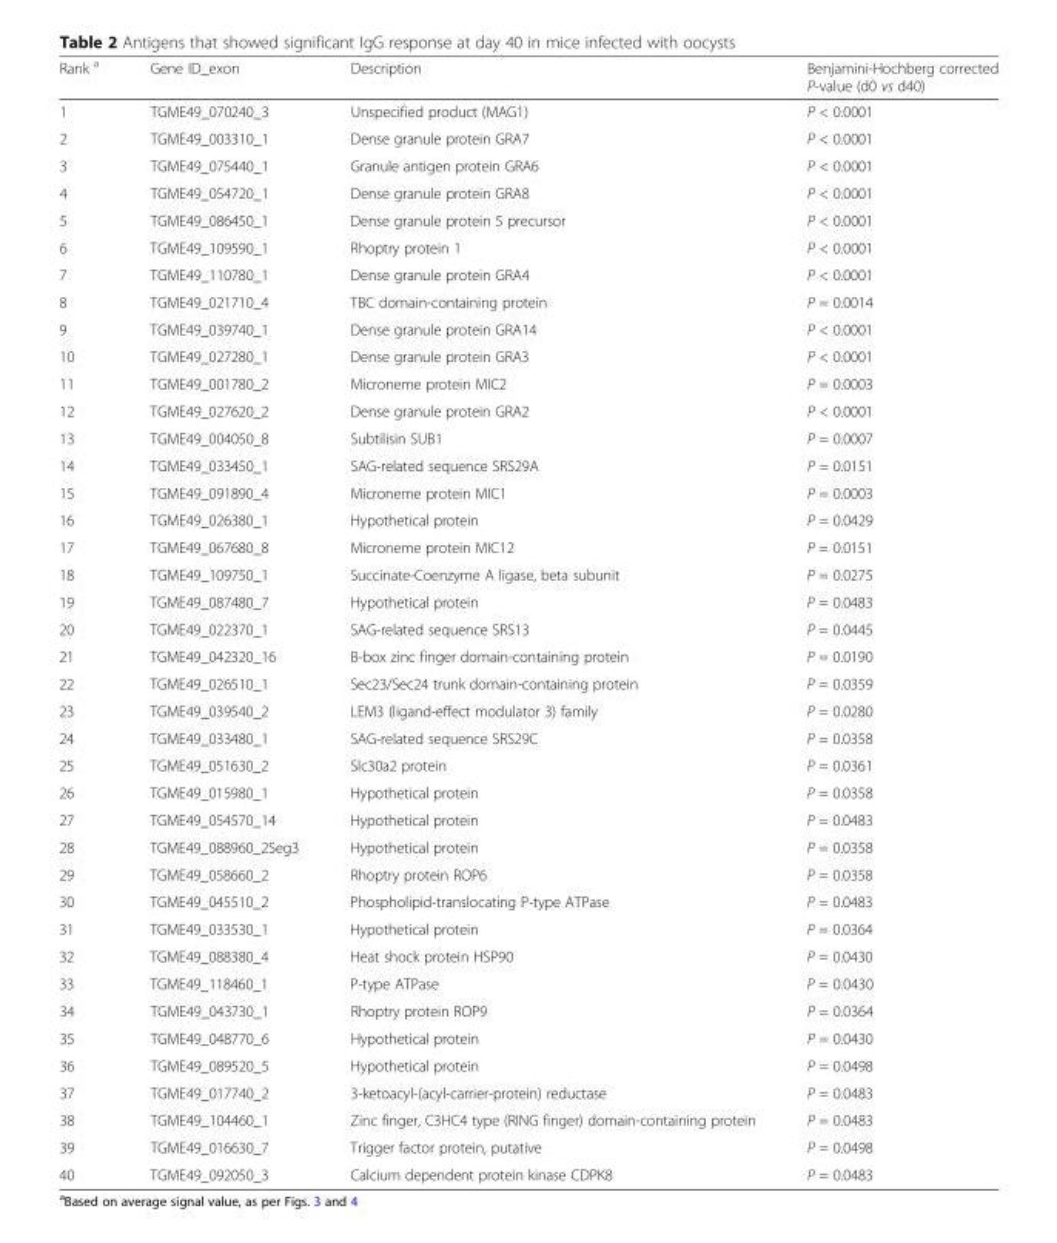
<table><thead><tr><td>Rank <sup>a</sup></td><td>Gene ID_exon</td><td>Description</td><td>Benjamini-Hochberg corrected P-value (d0 vs d40)</td></tr></thead><tbody><tr><td>1</td><td>TGME49_070240_3</td><td>Unspecified product (MAG1)</td><td>P &lt; 0.0001</td></tr><tr><td>2</td><td>TGME49_003310_1</td><td>Dense granule protein GRA7</td><td>P &lt; 0.0001</td></tr><tr><td>3</td><td>TGME49_075440_1</td><td>Granule antigen protein GRA6</td><td>P &lt; 0.0001</td></tr><tr><td>4</td><td>TGME49_054720_1</td><td>Dense granule protein GRA8</td><td>P &lt; 0.0001</td></tr><tr><td>5</td><td>TGME49_086450_1</td><td>Dense granule protein 5 precursor</td><td>P &lt; 0.0001</td></tr><tr><td>6</td><td>TGME49_109590_1</td><td>Rhoptry protein 1</td><td>P &lt; 0.0001</td></tr><tr><td>7</td><td>TGME49_110780_1</td><td>Dense granule protein GRA4</td><td>P &lt; 0.0001</td></tr><tr><td>8</td><td>TGME49_021710_4</td><td>TBC domain-containing protein</td><td>P = 0.0014</td></tr><tr><td>9</td><td>TGME49_039740_1</td><td>Dense granule protein GRA14</td><td>P &lt; 0.0001</td></tr><tr><td>10</td><td>TGME49_027280_1</td><td>Dense granule protein GRA3</td><td>P &lt; 0.0001</td></tr><tr><td>11</td><td>TGME49_001780_2</td><td>Microneme protein MIC2</td><td>P = 0.0003</td></tr><tr><td>12</td><td>TGME49_027620_2</td><td>Dense granule protein GRA2</td><td>P &lt; 0.0001</td></tr><tr><td>13</td><td>TGME49_004050_8</td><td>Subtilisin SUB1</td><td>P = 0.0007</td></tr><tr><td>14</td><td>TGME49_033450_1</td><td>SAG-related sequence SRS29A</td><td>P = 0.0151</td></tr><tr><td>15</td><td>TGME49_091890_4</td><td>Microneme protein MIC1</td><td>P = 0.0003</td></tr><tr><td>16</td><td>TGME49_026380_1</td><td>Hypothetical protein</td><td>P = 0.0429</td></tr><tr><td>17</td><td>TGME49_067680_8</td><td>Microneme protein MIC12</td><td>P = 0.0151</td></tr><tr><td>18</td><td>TGME49_109750_1</td><td>Succinate-Coenzyme A ligase, beta subunit</td><td>P = 0.0275</td></tr><tr><td>19</td><td>TGME49_087480_7</td><td>Hypothetical protein</td><td>P = 0.0483</td></tr><tr><td>20</td><td>TGME49_022370_1</td><td>SAG-related sequence SRS13</td><td>P = 0.0445</td></tr><tr><td>21</td><td>TGME49_042320_16</td><td>B-box zinc finger domain-containing protein</td><td>P = 0.0190</td></tr><tr><td>22</td><td>TGME49_026510_1</td><td>Sec23/Sec24 trunk domain-containing protein</td><td>P = 0.0359</td></tr><tr><td>23</td><td>TGME49_039540_2</td><td>LEM3 (ligand-effect modulator 3) family</td><td>P = 0.0280</td></tr><tr><td>24</td><td>TGME49_033480_1</td><td>SAG-related sequence SRS29C</td><td>P = 0.0358</td></tr><tr><td>25</td><td>TGME49_051630_2</td><td>Slc30a2 protein</td><td>P = 0.0361</td></tr><tr><td>26</td><td>TGME49_015980_1</td><td>Hypothetical protein</td><td>P = 0.0358</td></tr><tr><td>27</td><td>TGME49_054570_14</td><td>Hypothetical protein</td><td>P = 0.0483</td></tr><tr><td>28</td><td>TGME49_088960_2Seg3</td><td>Hypothetical protein</td><td>P = 0.0358</td></tr><tr><td>29</td><td>TGME49_058660_2</td><td>Rhoptry protein ROP6</td><td>P = 0.0358</td></tr><tr><td>30</td><td>TGME49_045510_2</td><td>Phospholipid-translocating P-type ATPase</td><td>P = 0.0483</td></tr><tr><td>31</td><td>TGME49_033530_1</td><td>Hypothetical protein</td><td>P = 0.0364</td></tr><tr><td>32</td><td>TGME49_088380_4</td><td>Heat shock protein HSP90</td><td>P = 0.0430</td></tr><tr><td>33</td><td>TGME49_118460_1</td><td>P-type ATPase</td><td>P = 0.0430</td></tr><tr><td>34</td><td>TGME49_043730_1</td><td>Rhoptry protein ROP9</td><td>P = 0.0364</td></tr><tr><td>35</td><td>TGME49_048770_6</td><td>Hypothetical protein</td><td>P = 0.0430</td></tr><tr><td>36</td><td>TGME49_089520_5</td><td>Hypothetical protein</td><td>P = 0.0498</td></tr><tr><td>37</td><td>TGME49_017740_2</td><td>3-ketoacyl-(acyl-carrier-protein) reductase</td><td>P = 0.0483</td></tr><tr><td>38</td><td>TGME49_104460_1</td><td>Zinc finger, C3HC4 type (RING finger) domain-containing protein</td><td>P = 0.0483</td></tr><tr><td>39</td><td>TGME49_016630_7</td><td>Trigger factor protein, putative</td><td>P = 0.0498</td></tr><tr><td>40</td><td>TGME49_092050_3</td><td>Calcium dependent protein kinase CDPK8</td><td>P = 0.0483</td></tr></tbody></table>